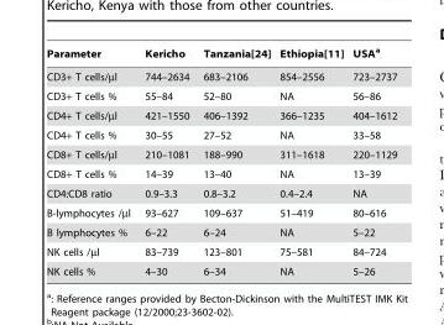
<table><thead><tr><td>Parameter</td><td>Kericho</td><td>Tanzania[24]</td><td>Ethiopia[11]</td><td>USA<sup>a</sup></td></tr></thead><tbody><tr><td>CD3+ T cells/µl</td><td>744–2634</td><td>683–2106</td><td>854–2556</td><td>723–2737</td></tr><tr><td>CD3+ T cells %</td><td>55–84</td><td>52–80</td><td>NA</td><td>56–86</td></tr><tr><td>CD4+ T cells/µl</td><td>421–1550</td><td>406–1392</td><td>366–1235</td><td>404–1612</td></tr><tr><td>CD4+ T cells %</td><td>30–55</td><td>27–52</td><td>NA</td><td>33–58</td></tr><tr><td>CD8+ T cells/µl</td><td>210–1081</td><td>188–990</td><td>311–1618</td><td>220–1129</td></tr><tr><td>CD8+ T cells %</td><td>14–39</td><td>13–40</td><td>NA</td><td>13–39</td></tr><tr><td>CD4:CD8 ratio</td><td>0.9–3.3</td><td>0.8–3.2</td><td>0.4–2.4</td><td>NA</td></tr><tr><td>B-lymphocytes /µl</td><td>93–627</td><td>109–637</td><td>51–419</td><td>80–616</td></tr><tr><td>B lymphocytes %</td><td>6–22</td><td>6–24</td><td>NA</td><td>5–22</td></tr><tr><td>NK cells /µl</td><td>83–739</td><td>123–801</td><td>75–581</td><td>84–724</td></tr><tr><td>NK cells %</td><td>4–30</td><td>6–34</td><td>NA</td><td>5–26</td></tr></tbody></table>